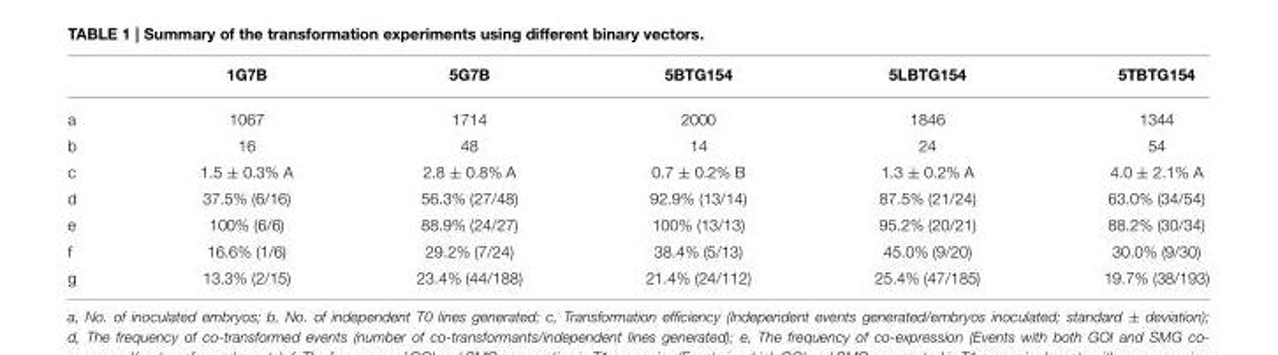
<table><thead><tr><td></td><td>1G7B</td><td>5G7B</td><td>5BTG154</td><td>5LBTG154</td><td>5TBTG154</td></tr></thead><tbody><tr><td>a</td><td>1067</td><td>1714</td><td>2000</td><td>1846</td><td>1344</td></tr><tr><td>b</td><td>16</td><td>48</td><td>14</td><td>24</td><td>54</td></tr><tr><td>c</td><td>1.5 ± 0.3% A</td><td>2.8 ± 0.8% A</td><td>0.7 ± 0.2% B</td><td>1.3 ± 0.2% A</td><td>4.0 ± 2.1% A</td></tr><tr><td>d</td><td>37.5% (6/16)</td><td>56.3% (27/48)</td><td>92.9% (13/14)</td><td>87.5% (21/24)</td><td>63.0% (34/54)</td></tr><tr><td>e</td><td>100% (6/6)</td><td>88.9% (24/27)</td><td>100% (13/13)</td><td>95.2% (20/21)</td><td>88.2% (30/34)</td></tr><tr><td>f</td><td>16.6% (1/6)</td><td>29.2% (7/24)</td><td>38.4% (5/13)</td><td>45.0% (9/20)</td><td>30.0% (9/30)</td></tr><tr><td>g</td><td>13.3% (2/15)</td><td>23.4% (44/188)</td><td>21.4% (24/112)</td><td>25.4% (47/185)</td><td>19.7% (38/193)</td></tr></tbody></table>